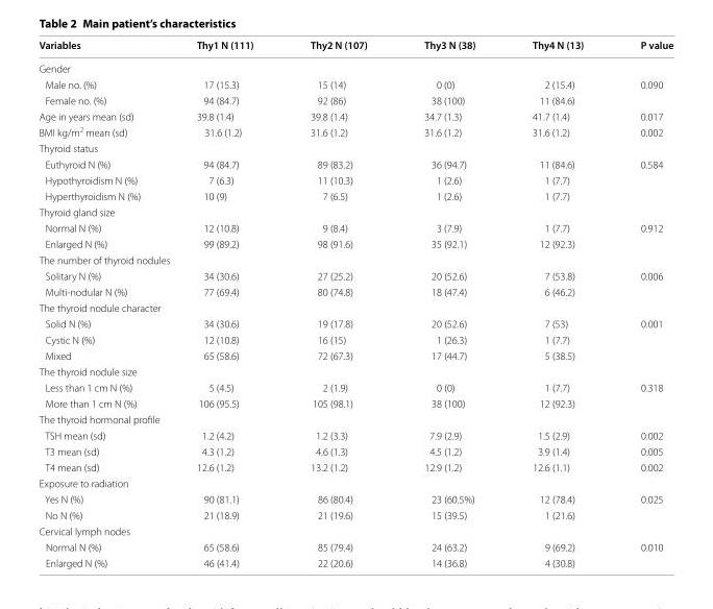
<table><thead><tr><td>Variables</td><td>Thy1 N (111)</td><td>Thy2 N (107)</td><td>Thy3 N (38)</td><td>Thy4 N (13)</td><td>P value</td></tr></thead><tbody><tr><td colspan="6">Gender</td></tr><tr><td>Male no. (%)</td><td>17 (15.3)</td><td>15 (14)</td><td>0 (0)</td><td>2 (15.4)</td><td rowspan="2">0.090</td></tr><tr><td>Female no. (%)</td><td>94 (84.7)</td><td>92 (86)</td><td>38 (100)</td><td>11 (84.6)</td></tr><tr><td>Age in years mean (sd)</td><td>39.8 (1.4)</td><td>39.8 (1.4)</td><td>34.7 (1.3)</td><td>41.7 (1.4)</td><td>0.017</td></tr><tr><td>BMI kg/m<sup>2</sup> mean (sd)</td><td>31.6 (1.2)</td><td>31.6 (1.2)</td><td>31.6 (1.2)</td><td>31.6 (1.2)</td><td>0.002</td></tr><tr><td colspan="6">Thyroid status</td></tr><tr><td>Euthyroid N (%)</td><td>94 (84.7)</td><td>89 (83.2)</td><td>36 (94.7)</td><td>11 (84.6)</td><td rowspan="3">0.584</td></tr><tr><td>Hypothyroidism N (%)</td><td>7 (6.3)</td><td>11 (10.3)</td><td>1 (2.6)</td><td>1 (7.7)</td></tr><tr><td>Hyperthyroidism N (%)</td><td>10 (9)</td><td>7 (6.5)</td><td>1 (2.6)</td><td>1 (7.7)</td></tr><tr><td colspan="6">Thyroid gland size</td></tr><tr><td>Normal N (%)</td><td>12 (10.8)</td><td>9 (8.4)</td><td>3 (7.9)</td><td>1 (7.7)</td><td rowspan="2">0.912</td></tr><tr><td>Enlarged N (%)</td><td>99 (89.2)</td><td>98 (91.6)</td><td>35 (92.1)</td><td>12 (92.3)</td></tr><tr><td colspan="6">The number of thyroid nodules</td></tr><tr><td>Solitary N (%)</td><td>34 (30.6)</td><td>27 (25.2)</td><td>20 (52.6)</td><td>7 (53.8)</td><td rowspan="2">0.006</td></tr><tr><td>Multi-nodular N (%)</td><td>77 (69.4)</td><td>80 (74.8)</td><td>18 (47.4)</td><td>6 (46.2)</td></tr><tr><td colspan="6">The thyroid nodule character</td></tr><tr><td>Solid N (%)</td><td>34 (30.6)</td><td>19 (17.8)</td><td>20 (52.6)</td><td>7 (53)</td><td rowspan="3">0.001</td></tr><tr><td>Cystic N (%)</td><td>12 (10.8)</td><td>16 (15)</td><td>1 (26.3)</td><td>1 (7.7)</td></tr><tr><td>Mixed</td><td>65 (58.6)</td><td>72 (67.3)</td><td>17 (44.7)</td><td>5 (38.5)</td></tr><tr><td colspan="6">The thyroid nodule size</td></tr><tr><td>Less than 1 cm N (%)</td><td>5 (4.5)</td><td>2 (1.9)</td><td>0 (0)</td><td>1 (7.7)</td><td rowspan="2">0.318</td></tr><tr><td>More than 1 cm N (%)</td><td>106 (95.5)</td><td>105 (98.1)</td><td>38 (100)</td><td>12 (92.3)</td></tr><tr><td colspan="6">The thyroid hormonal profile</td></tr><tr><td>TSH mean (sd)</td><td>1.2 (4.2)</td><td>1.2 (3.3)</td><td>7.9 (2.9)</td><td>1.5 (2.9)</td><td>0.002</td></tr><tr><td>T3 mean (sd)</td><td>4.3 (1.2)</td><td>4.6 (1.3)</td><td>4.5 (1.2)</td><td>3.9 (1.4)</td><td>0.005</td></tr><tr><td>T4 mean (sd)</td><td>12.6 (1.2)</td><td>13.2 (1.2)</td><td>12.9 (1.2)</td><td>12.6 (1.1)</td><td>0.002</td></tr><tr><td colspan="6">Exposure to radiation</td></tr><tr><td>Yes N (%)</td><td>90 (81.1)</td><td>86 (80.4)</td><td>23 (60.5%)</td><td>12 (78.4)</td><td rowspan="2">0.025</td></tr><tr><td>No N (%)</td><td>21 (18.9)</td><td>21 (19.6)</td><td>15 (39.5)</td><td>1 (21.6)</td></tr><tr><td colspan="6">Cervical lymph nodes</td></tr><tr><td>Normal N (%)</td><td>65 (58.6)</td><td>85 (79.4)</td><td>24 (63.2)</td><td>9 (69.2)</td><td rowspan="2">0.010</td></tr><tr><td>Enlarged N (%)</td><td>46 (41.4)</td><td>22 (20.6)</td><td>14 (36.8)</td><td>4 (30.8)</td></tr></tbody></table>